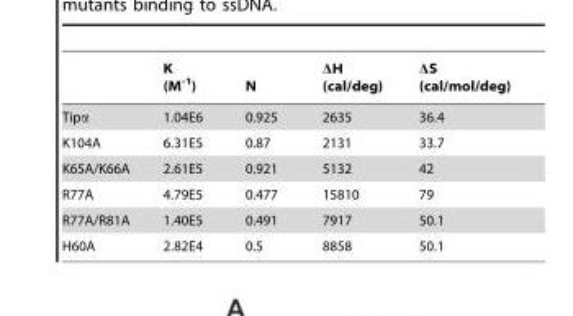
<table><thead><tr><td></td><td>K (M<sup>-1</sup>)</td><td>N</td><td>ΔH (cal/deg)</td><td>ΔS (cal/mol/deg)</td></tr></thead><tbody><tr><td>Tipα</td><td>1.04E6</td><td>0.925</td><td>2635</td><td>36.4</td></tr><tr><td>K104A</td><td>6.31E5</td><td>0.87</td><td>2131</td><td>33.7</td></tr><tr><td>K65A/K66A</td><td>2.61E5</td><td>0.921</td><td>5132</td><td>42</td></tr><tr><td>R77A</td><td>4.79E5</td><td>0.477</td><td>15810</td><td>79</td></tr><tr><td>R77A/R81A</td><td>1.40E5</td><td>0.491</td><td>7917</td><td>50.1</td></tr><tr><td>H60A</td><td>2.82E4</td><td>0.5</td><td>8858</td><td>50.1</td></tr></tbody></table>